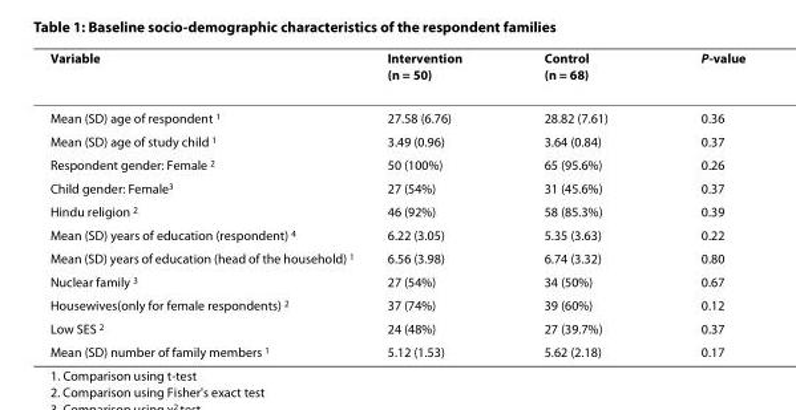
<table><thead><tr><td>Variable</td><td>Intervention (n = 50)</td><td>Control (n = 68)</td><td>P-value</td></tr></thead><tbody><tr><td>Mean (SD) age of respondent <sup>1</sup></td><td>27.58 (6.76)</td><td>28.82 (7.61)</td><td>0.36</td></tr><tr><td>Mean (SD) age of study child <sup>1</sup></td><td>3.49 (0.96)</td><td>3.64 (0.84)</td><td>0.37</td></tr><tr><td>Respondent gender: Female <sup>2</sup></td><td>50 (100%)</td><td>65 (95.6%)</td><td>0.26</td></tr><tr><td>Child gender: Female<sup>3</sup></td><td>27 (54%)</td><td>31 (45.6%)</td><td>0.37</td></tr><tr><td>Hindu religion <sup>2</sup></td><td>46 (92%)</td><td>58 (85.3%)</td><td>0.39</td></tr><tr><td>Mean (SD) years of education (respondent) <sup>4</sup></td><td>6.22 (3.05)</td><td>5.35 (3.63)</td><td>0.22</td></tr><tr><td>Mean (SD) years of education (head of the household) <sup>1</sup></td><td>6.56 (3.98)</td><td>6.74 (3.32)</td><td>0.80</td></tr><tr><td>Nuclear family <sup>3</sup></td><td>27 (54%)</td><td>34 (50%)</td><td>0.67</td></tr><tr><td>Housewives(only for female respondents) <sup>2</sup></td><td>37 (74%)</td><td>39 (60%)</td><td>0.12</td></tr><tr><td>Low SES <sup>2</sup></td><td>24 (48%)</td><td>27 (39.7%)</td><td>0.37</td></tr><tr><td>Mean (SD) number of family members <sup>1</sup></td><td>5.12 (1.53)</td><td>5.62 (2.18)</td><td>0.17</td></tr></tbody></table>